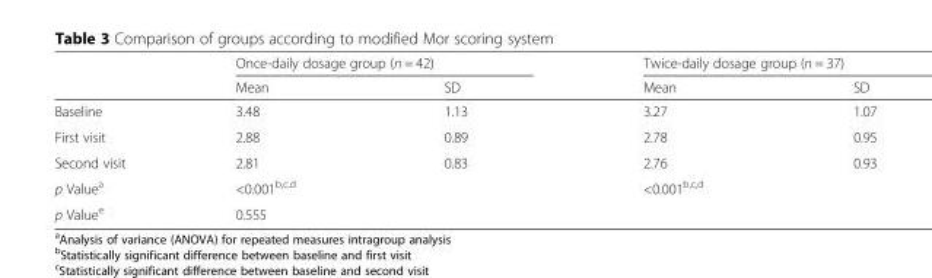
<table><thead><tr><td rowspan="2"></td><td colspan="2">Once-daily dosage group (n = 42)</td><td colspan="2">Twice-daily dosage group (n = 37)</td></tr><tr><td>Mean</td><td>SD</td><td>Mean</td><td>SD</td></tr></thead><tbody><tr><td>Baseline</td><td>3.48</td><td>1.13</td><td>3.27</td><td>1.07</td></tr><tr><td>First visit</td><td>2.88</td><td>0.89</td><td>2.78</td><td>0.95</td></tr><tr><td>Second visit</td><td>2.81</td><td>0.83</td><td>2.76</td><td>0.93</td></tr><tr><td>p Value<sup>a</sup></td><td colspan="2">&lt;0.001<sup>b,c,d</sup></td><td colspan="2">&lt;0.001<sup>b,c,d</sup></td></tr><tr><td>p Value<sup>e</sup></td><td colspan="4">0.555</td></tr></tbody></table>